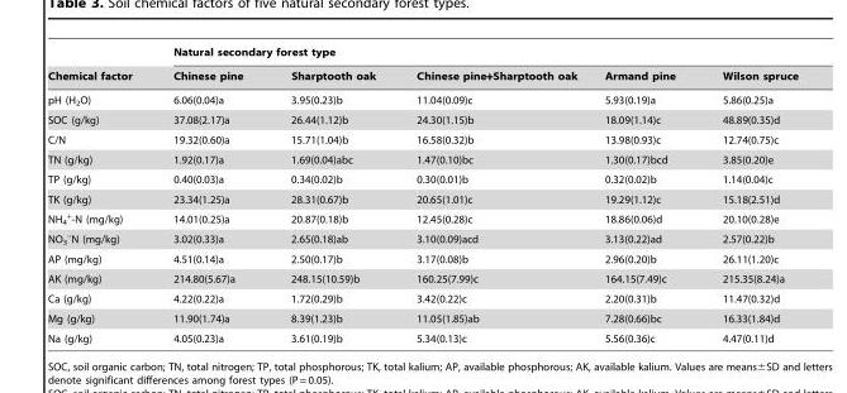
<table><thead><tr><td rowspan="2">Chemical factor</td><td colspan="5">Natural secondary forest type</td></tr><tr><td>Chinese pine</td><td>Sharptooth oak</td><td>Chinese pine+Sharptooth oak</td><td>Armand pine</td><td>Wilson spruce</td></tr></thead><tbody><tr><td>pH (H<sub>2</sub>O)</td><td>6.06(0.04)a</td><td>3.95(0.23)b</td><td>11.04(0.09)c</td><td>5.93(0.19)a</td><td>5.86(0.25)a</td></tr><tr><td>SOC (g/kg)</td><td>37.08(2.17)a</td><td>26.44(1.12)b</td><td>24.30(1.15)b</td><td>18.09(1.14)c</td><td>48.89(0.35)d</td></tr><tr><td>C/N</td><td>19.32(0.60)a</td><td>15.71(1.04)b</td><td>16.58(0.32)b</td><td>13.98(0.93)c</td><td>12.74(0.75)c</td></tr><tr><td>TN (g/kg)</td><td>1.92(0.17)a</td><td>1.69(0.04)abc</td><td>1.47(0.10)bc</td><td>1.30(0.17)bcd</td><td>3.85(0.20)e</td></tr><tr><td>TP (g/kg)</td><td>0.40(0.03)a</td><td>0.34(0.02)b</td><td>0.30(0.01)b</td><td>0.32(0.02)b</td><td>1.14(0.04)c</td></tr><tr><td>TK (g/kg)</td><td>23.34(1.25)a</td><td>28.31(0.67)b</td><td>20.65(1.01)c</td><td>19.29(1.12)c</td><td>15.18(2.51)d</td></tr><tr><td>NH<sub>4</sub> <sup>+</sup>-N (mg/kg)</td><td>14.01(0.25)a</td><td>20.87(0.18)b</td><td>12.45(0.28)c</td><td>18.86(0.06)d</td><td>20.10(0.28)e</td></tr><tr><td>NO<sub>3</sub> <sup>–</sup>N (mg/kg)</td><td>3.02(0.33)a</td><td>2.65(0.18)ab</td><td>3.10(0.09)acd</td><td>3.13(0.22)ad</td><td>2.57(0.22)b</td></tr><tr><td>AP (mg/kg)</td><td>4.51(0.14)a</td><td>2.50(0.17)b</td><td>3.17(0.08)b</td><td>2.96(0.20)b</td><td>26.11(1.20)c</td></tr><tr><td>AK (mg/kg)</td><td>214.80(5.67)a</td><td>248.15(10.59)b</td><td>160.25(7.99)c</td><td>164.15(7.49)c</td><td>215.35(8.24)a</td></tr><tr><td>Ca (g/kg)</td><td>4.22(0.22)a</td><td>1.72(0.29)b</td><td>3.42(0.22)c</td><td>2.20(0.31)b</td><td>11.47(0.32)d</td></tr><tr><td>Mg (g/kg)</td><td>11.90(1.74)a</td><td>8.39(1.23)b</td><td>11.05(1.85)ab</td><td>7.28(0.66)bc</td><td>16.33(1.84)d</td></tr><tr><td>Na (g/kg)</td><td>4.05(0.23)a</td><td>3.61(0.19)b</td><td>5.34(0.13)c</td><td>5.56(0.36)c</td><td>4.47(0.11)d</td></tr></tbody></table>